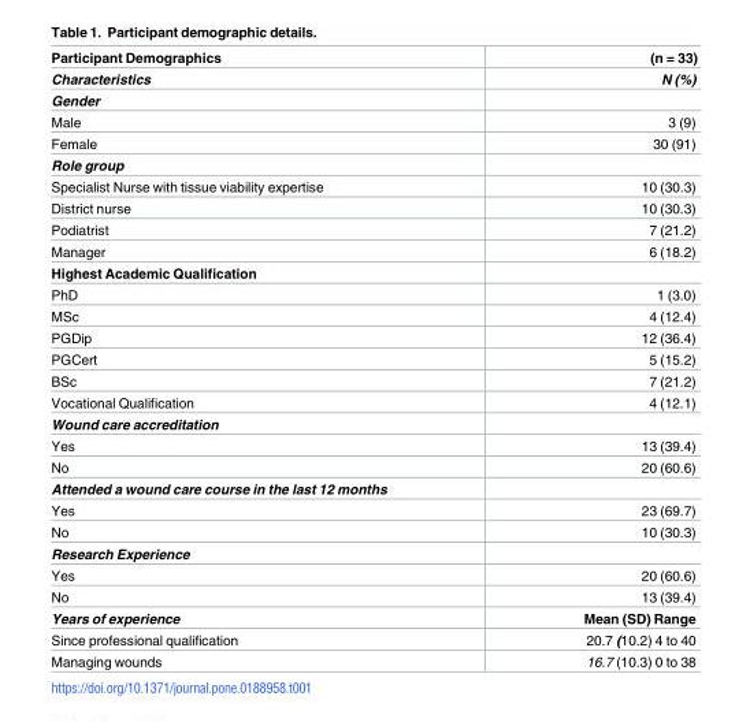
<table><thead><tr><td>Participant Demographics</td><td>(n = 33)</td></tr></thead><tbody><tr><td>Characteristics</td><td>N (%)</td></tr><tr><td colspan="2">Gender</td></tr><tr><td>Male</td><td>3 (9)</td></tr><tr><td>Female</td><td>30 (91)</td></tr><tr><td colspan="2">Role group</td></tr><tr><td>Specialist Nurse with tissue viability expertise</td><td>10 (30.3)</td></tr><tr><td>District nurse</td><td>10 (30.3)</td></tr><tr><td>Podiatrist</td><td>7 (21.2)</td></tr><tr><td>Manager</td><td>6 (18.2)</td></tr><tr><td colspan="2">Highest Academic Qualification</td></tr><tr><td>PhD</td><td>1 (3.0)</td></tr><tr><td>MSc</td><td>4 (12.4)</td></tr><tr><td>PGDip</td><td>12 (36.4)</td></tr><tr><td>PGCert</td><td>5 (15.2)</td></tr><tr><td>BSc</td><td>7 (21.2)</td></tr><tr><td>Vocational Qualification</td><td>4 (12.1)</td></tr><tr><td colspan="2">Wound care accreditation</td></tr><tr><td>Yes</td><td>13 (39.4)</td></tr><tr><td>No</td><td>20 (60.6)</td></tr><tr><td colspan="2">Attended a wound care course in the last 12 months</td></tr><tr><td>Yes</td><td>23 (69.7)</td></tr><tr><td>No</td><td>10 (30.3)</td></tr><tr><td colspan="2">Research Experience</td></tr><tr><td>Yes</td><td>20 (60.6)</td></tr><tr><td>No</td><td>13 (39.4)</td></tr><tr><td>Years of experience</td><td>Mean (SD) Range</td></tr><tr><td>Since professional qualification</td><td>20.7 (10.2) 4 to 40</td></tr><tr><td>Managing wounds</td><td>16.7 (10.3) 0 to 38</td></tr></tbody></table>